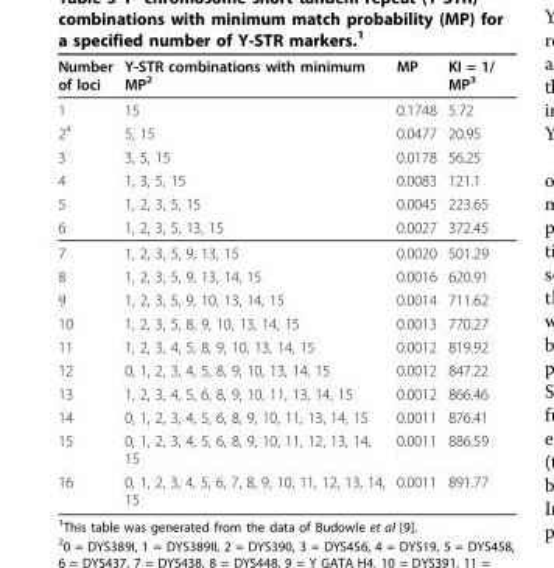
<table><thead><tr><td>Number of loci</td><td>Y-STR combinations with minimum MP<sup>2</sup></td><td>MP</td><td>KI = 1/ MP<sup>3</sup></td></tr></thead><tbody><tr><td>1</td><td>15</td><td>0.1748</td><td>5.72</td></tr><tr><td>2<sup>4</sup></td><td>5, 15</td><td>0.0477</td><td>20.95</td></tr><tr><td>3</td><td>3, 5, 15</td><td>0.0178</td><td>56.25</td></tr><tr><td>4</td><td>1, 3, 5, 15</td><td>0.0083</td><td>121.1</td></tr><tr><td>5</td><td>1, 2, 3, 5, 15</td><td>0.0045</td><td>223.65</td></tr><tr><td>6</td><td>1, 2, 3, 5, 13, 15</td><td>0.0027</td><td>372.45</td></tr><tr><td>7</td><td>1, 2, 3, 5, 9, 13, 15</td><td>0.0020</td><td>501.29</td></tr><tr><td>8</td><td>1, 2, 3, 5, 9, 13, 14, 15</td><td>0.0016</td><td>620.91</td></tr><tr><td>9</td><td>1, 2, 3, 5, 9, 10, 13, 14, 15</td><td>0.0014</td><td>711.62</td></tr><tr><td>10</td><td>1, 2, 3, 5, 8, 9, 10, 13, 14, 15</td><td>0.0013</td><td>770.27</td></tr><tr><td>11</td><td>1, 2, 3, 4, 5, 8, 9, 10, 13, 14, 15</td><td>0.0012</td><td>819.92</td></tr><tr><td>12</td><td>0, 1, 2, 3, 4, 5, 8, 9, 10, 13, 14, 15</td><td>0.0012</td><td>847.22</td></tr><tr><td>13</td><td>1, 2, 3, 4, 5, 6, 8, 9, 10, 11, 13, 14, 15</td><td>0.0012</td><td>866.46</td></tr><tr><td>14</td><td>0, 1, 2, 3, 4, 5, 6, 8, 9, 10, 11, 13, 14, 15</td><td>0.0011</td><td>876.41</td></tr><tr><td>15</td><td>0, 1, 2, 3, 4, 5, 6, 8, 9, 10, 11, 12, 13, 14, 15</td><td>0.0011</td><td>886.59</td></tr><tr><td>16</td><td>0, 1, 2, 3, 4, 5, 6, 7, 8, 9, 10, 11, 12, 13, 14, 15</td><td>0.0011</td><td>891.77</td></tr></tbody></table>